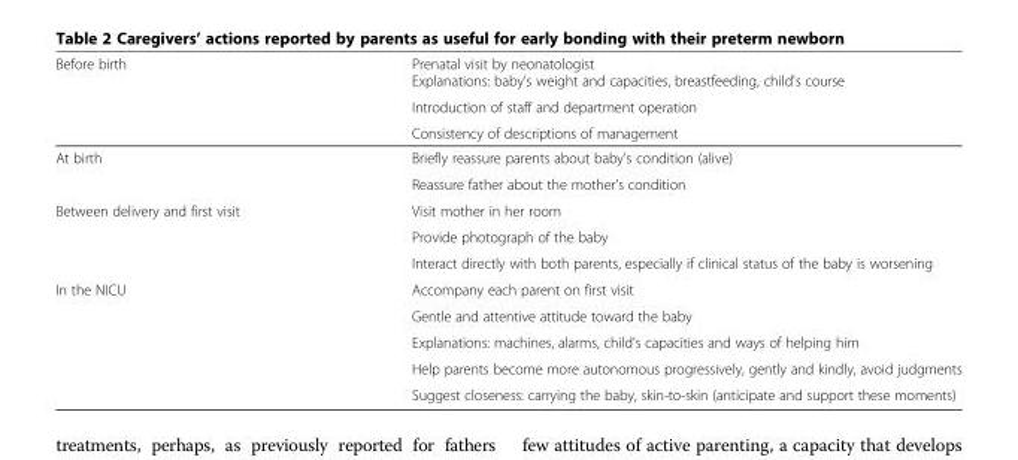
<table><tbody><tr><td rowspan="4">Before birth</td><td>Prenatal visit by neonatologist</td></tr><tr><td>Explanations: baby’s weight and capacities, breastfeeding, child&#x27;s course</td></tr><tr><td>Introduction of staff and department operation</td></tr><tr><td>Consistency of descriptions of management</td></tr><tr><td rowspan="2">At birth</td><td>Briefly reassure parents about baby&#x27;s condition (alive)</td></tr><tr><td>Reassure father about the mother&#x27;s condition</td></tr><tr><td rowspan="3">Between delivery and first visit</td><td>Visit mother in her room</td></tr><tr><td>Provide photograph of the baby</td></tr><tr><td>Interact directly with both parents, especially if clinical status of the baby is worsening</td></tr><tr><td rowspan="5">In the NICU</td><td>Accompany each parent on first visit</td></tr><tr><td>Gentle and attentive attitude toward the baby</td></tr><tr><td>Explanations: machines, alarms, child&#x27;s capacities and ways of helping him</td></tr><tr><td>Help parents become more autonomous progressively, gently and kindly, avoid judgments</td></tr><tr><td>Suggest closeness: carrying the baby, skin-to-skin (anticipate and support these moments)</td></tr></tbody></table>